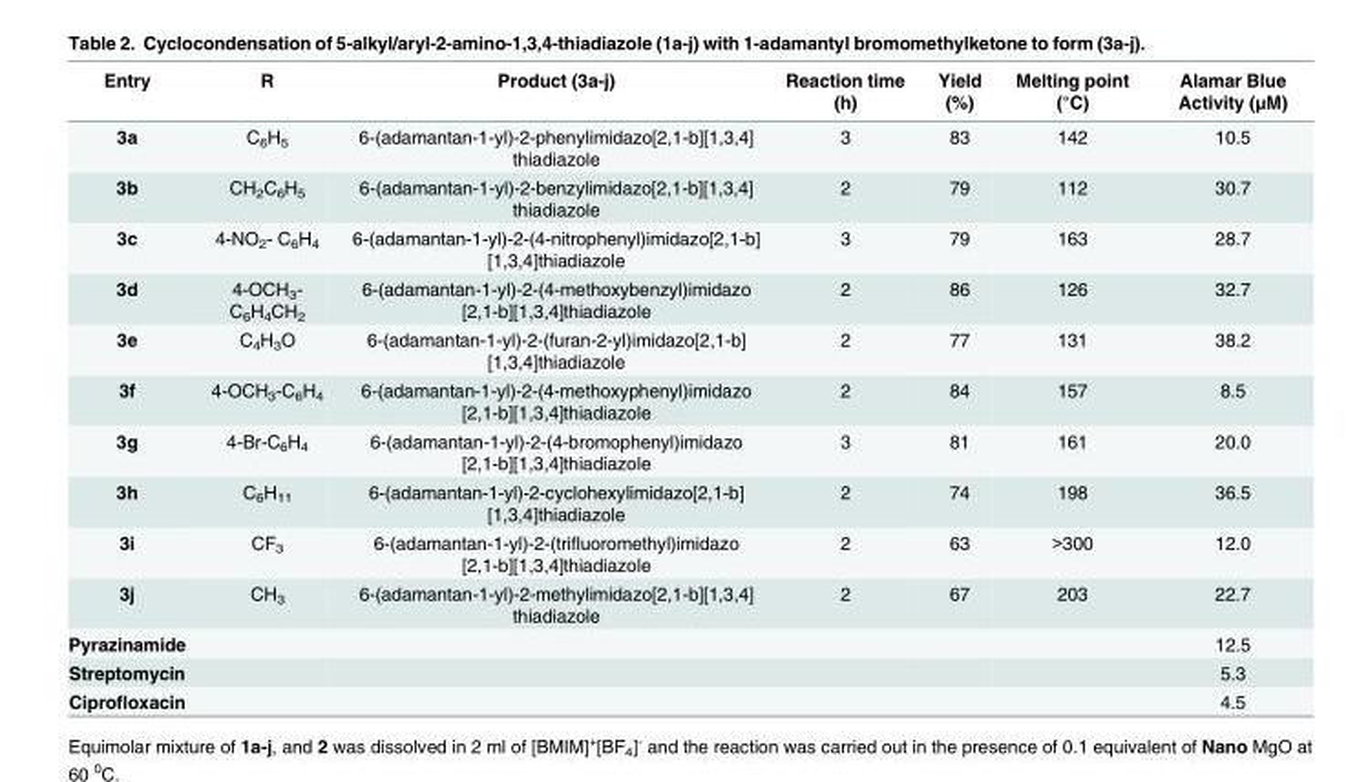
<table><thead><tr><td>Entry</td><td>R</td><td>Product (3a-j)</td><td>Reaction time (h)</td><td>Yield (%)</td><td>Melting point (°C)</td><td>Alamar Blue Activity (μM)</td></tr></thead><tbody><tr><td>3a</td><td>C<sub>6</sub>H<sub>5</sub></td><td>6-(adamantan-1-yl)-2-phenylimidazo[2,1-b][1,3,4] thiadiazole</td><td>3</td><td>83</td><td>142</td><td>10.5</td></tr><tr><td>3b</td><td>CH<sub>2</sub>C<sub>6</sub>H<sub>5</sub></td><td>6-(adamantan-1-yl)-2-benzylimidazo[2,1-b][1,3,4] thiadiazole</td><td>2</td><td>79</td><td>112</td><td>30.7</td></tr><tr><td>3c</td><td>4-NO<sub>2</sub>- C<sub>6</sub>H<sub>4</sub></td><td>6-(adamantan-1-yl)-2-(4-nitrophenyl)imidazo[2,1-b] [1,3,4]thiadiazole</td><td>3</td><td>79</td><td>163</td><td>28.7</td></tr><tr><td>3d</td><td>4-OCH<sub>3</sub>- C<sub>6</sub>H<sub>4</sub>CH<sub>2</sub></td><td>6-(adamantan-1-yl)-2-(4-methoxybenzyl)imidazo [2,1-b][1,3,4]thiadiazole</td><td>2</td><td>86</td><td>126</td><td>32.7</td></tr><tr><td>3e</td><td>C<sub>4</sub>H<sub>3</sub>O</td><td>6-(adamantan-1-yl)-2-(furan-2-yl)imidazo[2,1-b] [1,3,4]thiadiazole</td><td>2</td><td>77</td><td>131</td><td>38.2</td></tr><tr><td>3f</td><td>4-OCH<sub>3</sub>-C<sub>6</sub>H<sub>4</sub></td><td>6-(adamantan-1-yl)-2-(4-methoxyphenyl)imidazo [2,1-b][1,3,4]thiadiazole</td><td>2</td><td>84</td><td>157</td><td>8.5</td></tr><tr><td>3g</td><td>4-Br-C<sub>6</sub>H<sub>4</sub></td><td>6-(adamantan-1-yl)-2-(4-bromophenyl)imidazo [2,1-b][1,3,4]thiadiazole</td><td>3</td><td>81</td><td>161</td><td>20.0</td></tr><tr><td>3h</td><td>C<sub>6</sub>H<sub>11</sub></td><td>6-(adamantan-1-yl)-2-cyclohexylimidazo[2,1-b] [1,3,4]thiadiazole</td><td>2</td><td>74</td><td>198</td><td>36.5</td></tr><tr><td>3i</td><td>CF<sub>3</sub></td><td>6-(adamantan-1-yl)-2-(trifluoromethyl)imidazo [2,1-b][1,3,4]thiadiazole</td><td>2</td><td>63</td><td>&gt;300</td><td>12.0</td></tr><tr><td>3j</td><td>CH<sub>3</sub></td><td>6-(adamantan-1-yl)-2-methylimidazo[2,1-b][1,3,4] thiadiazole</td><td>2</td><td>67</td><td>203</td><td>22.7</td></tr><tr><td>Pyrazinamide</td><td></td><td></td><td></td><td></td><td></td><td>12.5</td></tr><tr><td>Streptomycin</td><td></td><td></td><td></td><td></td><td></td><td>5.3</td></tr><tr><td>Ciprofloxacin</td><td></td><td></td><td></td><td></td><td></td><td>4.5</td></tr></tbody></table>